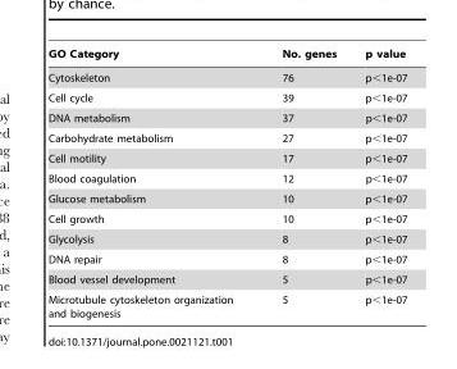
<table><thead><tr><td>GO Category</td><td>No. genes</td><td>p value</td></tr></thead><tbody><tr><td>Cytoskeleton</td><td>76</td><td>p&lt;1e-07</td></tr><tr><td>Cell cycle</td><td>39</td><td>p&lt;1e-07</td></tr><tr><td>DNA metabolism</td><td>37</td><td>p&lt;1e-07</td></tr><tr><td>Carbohydrate metabolism</td><td>27</td><td>p&lt;1e-07</td></tr><tr><td>Cell motility</td><td>17</td><td>p&lt;1e-07</td></tr><tr><td>Blood coagulation</td><td>12</td><td>p&lt;1e-07</td></tr><tr><td>Glucose metabolism</td><td>10</td><td>p&lt;1e-07</td></tr><tr><td>Cell growth</td><td>10</td><td>p&lt;1e-07</td></tr><tr><td>Glycolysis</td><td>8</td><td>p&lt;1e-07</td></tr><tr><td>DNA repair</td><td>8</td><td>p&lt;1e-07</td></tr><tr><td>Blood vessel development</td><td>5</td><td>p&lt;1e-07</td></tr><tr><td>Microtubule cytoskeleton organization and biogenesis</td><td>5</td><td>p&lt;1e-07</td></tr></tbody></table>